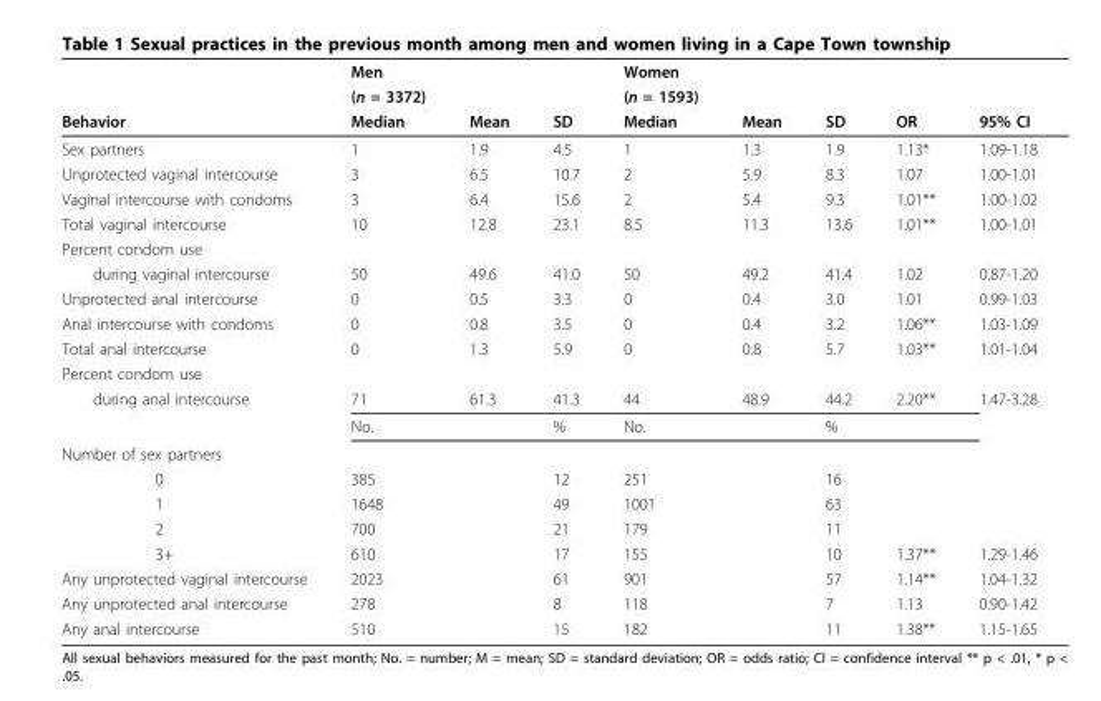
<table><thead><tr><td rowspan="3">Behavior</td><td rowspan="3">Men (n = 3372) Median</td><td rowspan="3">Mean</td><td rowspan="3">SD</td><td rowspan="3">Women (n = 1593) Median</td><td rowspan="3">Mean</td><td rowspan="3">SD</td><td rowspan="3">OR</td><td rowspan="3">95% CI</td></tr><tr></tr><tr></tr></thead><tbody><tr><td>Sex partners</td><td>1</td><td>1.9</td><td>4.5</td><td>1</td><td>1.3</td><td>1.9</td><td>1.13*</td><td>1.09-1.18</td></tr><tr><td>Unprotected vaginal intercourse</td><td>3</td><td>6.5</td><td>10.7</td><td>2</td><td>5.9</td><td>8.3</td><td>1.07</td><td>1.00-1.01</td></tr><tr><td>Vaginal intercourse with condoms</td><td>3</td><td>6.4</td><td>15.6</td><td>2</td><td>5.4</td><td>9.3</td><td>1.01**</td><td>1.00-1.02</td></tr><tr><td>Total vaginal intercourse</td><td>10</td><td>12.8</td><td>23.1</td><td>8.5</td><td>11.3</td><td>13.6</td><td>1.01**</td><td>1.00-1.01</td></tr><tr><td colspan="9">Percent condom use</td></tr><tr><td>during vaginal intercourse</td><td>50</td><td>49.6</td><td>41.0</td><td>50</td><td>49.2</td><td>41.4</td><td>1.02</td><td>0.87-1.20</td></tr><tr><td>Unprotected anal intercourse</td><td>0</td><td>0.5</td><td>3.3</td><td>0</td><td>0.4</td><td>3.0</td><td>1.01</td><td>0.99-1.03</td></tr><tr><td>Anal intercourse with condoms</td><td>0</td><td>0.8</td><td>3.5</td><td>0</td><td>0.4</td><td>3.2</td><td>1.06**</td><td>1.03-1.09</td></tr><tr><td>Total anal intercourse</td><td>0</td><td>1.3</td><td>5.9</td><td>0</td><td>0.8</td><td>5.7</td><td>1.03**</td><td>1.01-1.04</td></tr><tr><td colspan="9">Percent condom use</td></tr><tr><td rowspan="2">during anal intercourse</td><td>71</td><td>61.3</td><td>41.3</td><td>44</td><td>48.9</td><td>44.2</td><td>2.20**</td><td>1.47-3.28</td></tr><tr><td>No.</td><td></td><td>%</td><td>No.</td><td></td><td>%</td><td></td><td></td></tr><tr><td colspan="9">Number of sex partners</td></tr><tr><td>0</td><td>385</td><td></td><td>12</td><td>251</td><td></td><td>16</td><td></td><td></td></tr><tr><td>1</td><td>1648</td><td></td><td>49</td><td>1001</td><td></td><td>63</td><td></td><td></td></tr><tr><td>2</td><td>700</td><td></td><td>21</td><td>179</td><td></td><td>11</td><td></td><td></td></tr><tr><td>3+</td><td>610</td><td></td><td>17</td><td>155</td><td></td><td>10</td><td>1.37**</td><td>1.29-1.46</td></tr><tr><td>Any unprotected vaginal intercourse</td><td>2023</td><td></td><td>61</td><td>901</td><td></td><td>57</td><td>1.14**</td><td>1.04-1.32</td></tr><tr><td>Any unprotected anal intercourse</td><td>278</td><td></td><td>8</td><td>118</td><td></td><td>7</td><td>1.13</td><td>0.90-1.42</td></tr><tr><td>Any anal intercourse</td><td>510</td><td></td><td>15</td><td>182</td><td></td><td>11</td><td>1.38**</td><td>1.15-1.65</td></tr></tbody></table>